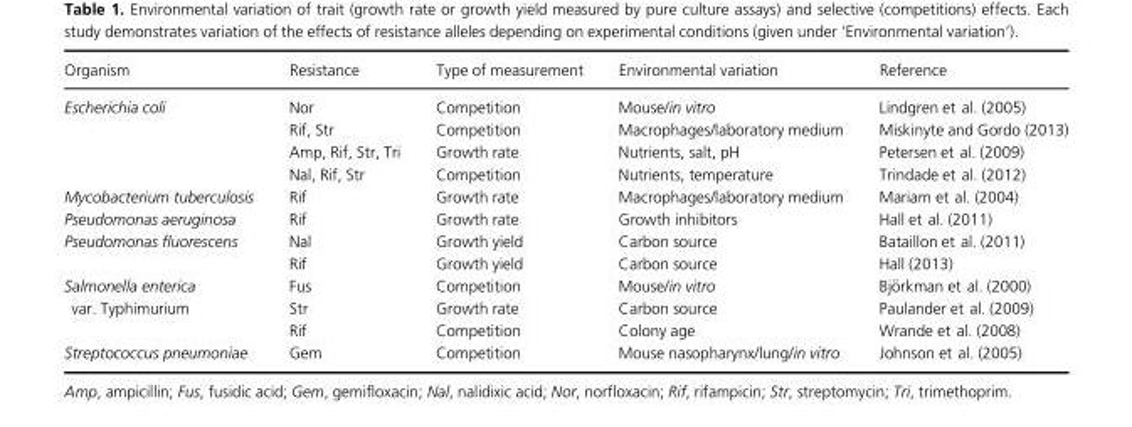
<table><thead><tr><td>Organism</td><td>Resistance</td><td>Type of measurement</td><td>Environmental variation</td><td>Reference</td></tr></thead><tbody><tr><td rowspan="4">Escherichia coli</td><td>Nor</td><td>Competition</td><td>Mouse/in vitro</td><td>Lindgren et al. (2005)</td></tr><tr><td>Rif, Str</td><td>Competition</td><td>Macrophages/laboratory medium</td><td>Miskinyte and Gordo (2013)</td></tr><tr><td>Amp, Rif, Str, Tri</td><td>Growth rate</td><td>Nutrients, salt, pH</td><td>Petersen et al. (2009)</td></tr><tr><td>Nal, Rif, Str</td><td>Competition</td><td>Nutrients, temperature</td><td>Trindade et al. (2012)</td></tr><tr><td>Mycobacterium tuberculosis</td><td>Rif</td><td>Growth rate</td><td>Macrophages/laboratory medium</td><td>Mariam et al. (2004)</td></tr><tr><td>Pseudomonas aeruginosa</td><td>Rif</td><td>Growth rate</td><td>Growth inhibitors</td><td>Hall et al. (2011)</td></tr><tr><td rowspan="2">Pseudomonas fluorescens</td><td>Nal</td><td>Growth yield</td><td>Carbon source</td><td>Bataillon et al. (2011)</td></tr><tr><td>Rif</td><td>Growth yield</td><td>Carbon source</td><td>Hall (2013)</td></tr><tr><td rowspan="3">Salmonella enterica var. Typhimurium</td><td>Fus</td><td>Competition</td><td>Mouse/in vitro</td><td>Bj€orkman et al. (2000)</td></tr><tr><td>Str</td><td>Growth rate</td><td>Carbon source</td><td>Paulander et al. (2009)</td></tr><tr><td>Rif</td><td>Competition</td><td>Colony age</td><td>Wrande et al. (2008)</td></tr><tr><td>Streptococcus pneumoniae</td><td>Gem</td><td>Competition</td><td>Mouse nasopharynx/lung/in vitro</td><td>Johnson et al. (2005)</td></tr></tbody></table>